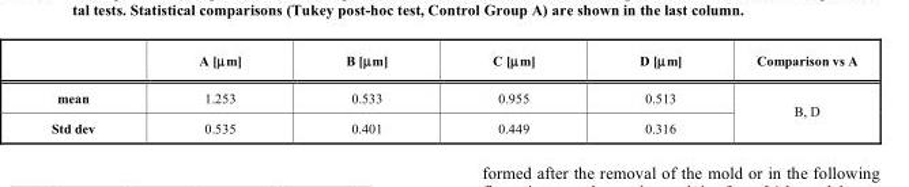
<table><thead><tr><td></td><td>A [μm]</td><td>B [μm]</td><td>C [μm]</td><td>D [μm]</td><td>Comparison vs A</td></tr></thead><tbody><tr><td>mean</td><td>1.253</td><td>0.533</td><td>0.955</td><td>0.513</td><td rowspan="2">B, D</td></tr><tr><td>Std dev</td><td>0.535</td><td>0.401</td><td>0.449</td><td>0.316</td></tr></tbody></table>